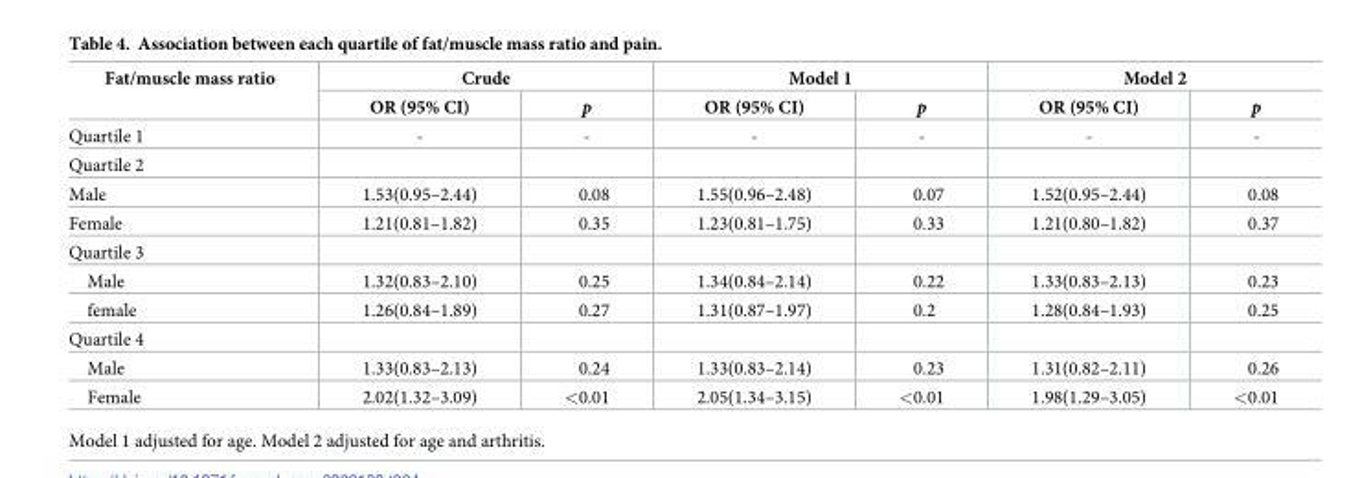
<table><thead><tr><td rowspan="2">Fat/muscle mass ratio</td><td colspan="2">Crude</td><td colspan="2">Model 1</td><td colspan="2">Model 2</td></tr><tr><td>OR (95% CI)</td><td>p</td><td>OR (95% CI)</td><td>p</td><td>OR (95% CI)</td><td>p</td></tr></thead><tbody><tr><td>Quartile 1</td><td>-</td><td>-</td><td>-</td><td>-</td><td>-</td><td>-</td></tr><tr><td colspan="7">Quartile 2</td></tr><tr><td>Male</td><td>1.53(0.95–2.44)</td><td>0.08</td><td>1.55(0.96–2.48)</td><td>0.07</td><td>1.52(0.95–2.44)</td><td>0.08</td></tr><tr><td>Female</td><td>1.21(0.81–1.82)</td><td>0.35</td><td>1.23(0.81–1.75)</td><td>0.33</td><td>1.21(0.80–1.82)</td><td>0.37</td></tr><tr><td colspan="7">Quartile 3</td></tr><tr><td>Male</td><td>1.32(0.83–2.10)</td><td>0.25</td><td>1.34(0.84–2.14)</td><td>0.22</td><td>1.33(0.83–2.13)</td><td>0.23</td></tr><tr><td>female</td><td>1.26(0.84–1.89)</td><td>0.27</td><td>1.31(0.87–1.97)</td><td>0.2</td><td>1.28(0.84–1.93)</td><td>0.25</td></tr><tr><td colspan="7">Quartile 4</td></tr><tr><td>Male</td><td>1.33(0.83–2.13)</td><td>0.24</td><td>1.33(0.83–2.14)</td><td>0.23</td><td>1.31(0.82–2.11)</td><td>0.26</td></tr><tr><td>Female</td><td>2.02(1.32–3.09)</td><td>&lt;0.01</td><td>2.05(1.34–3.15)</td><td>&lt;0.01</td><td>1.98(1.29–3.05)</td><td>&lt;0.01</td></tr></tbody></table>